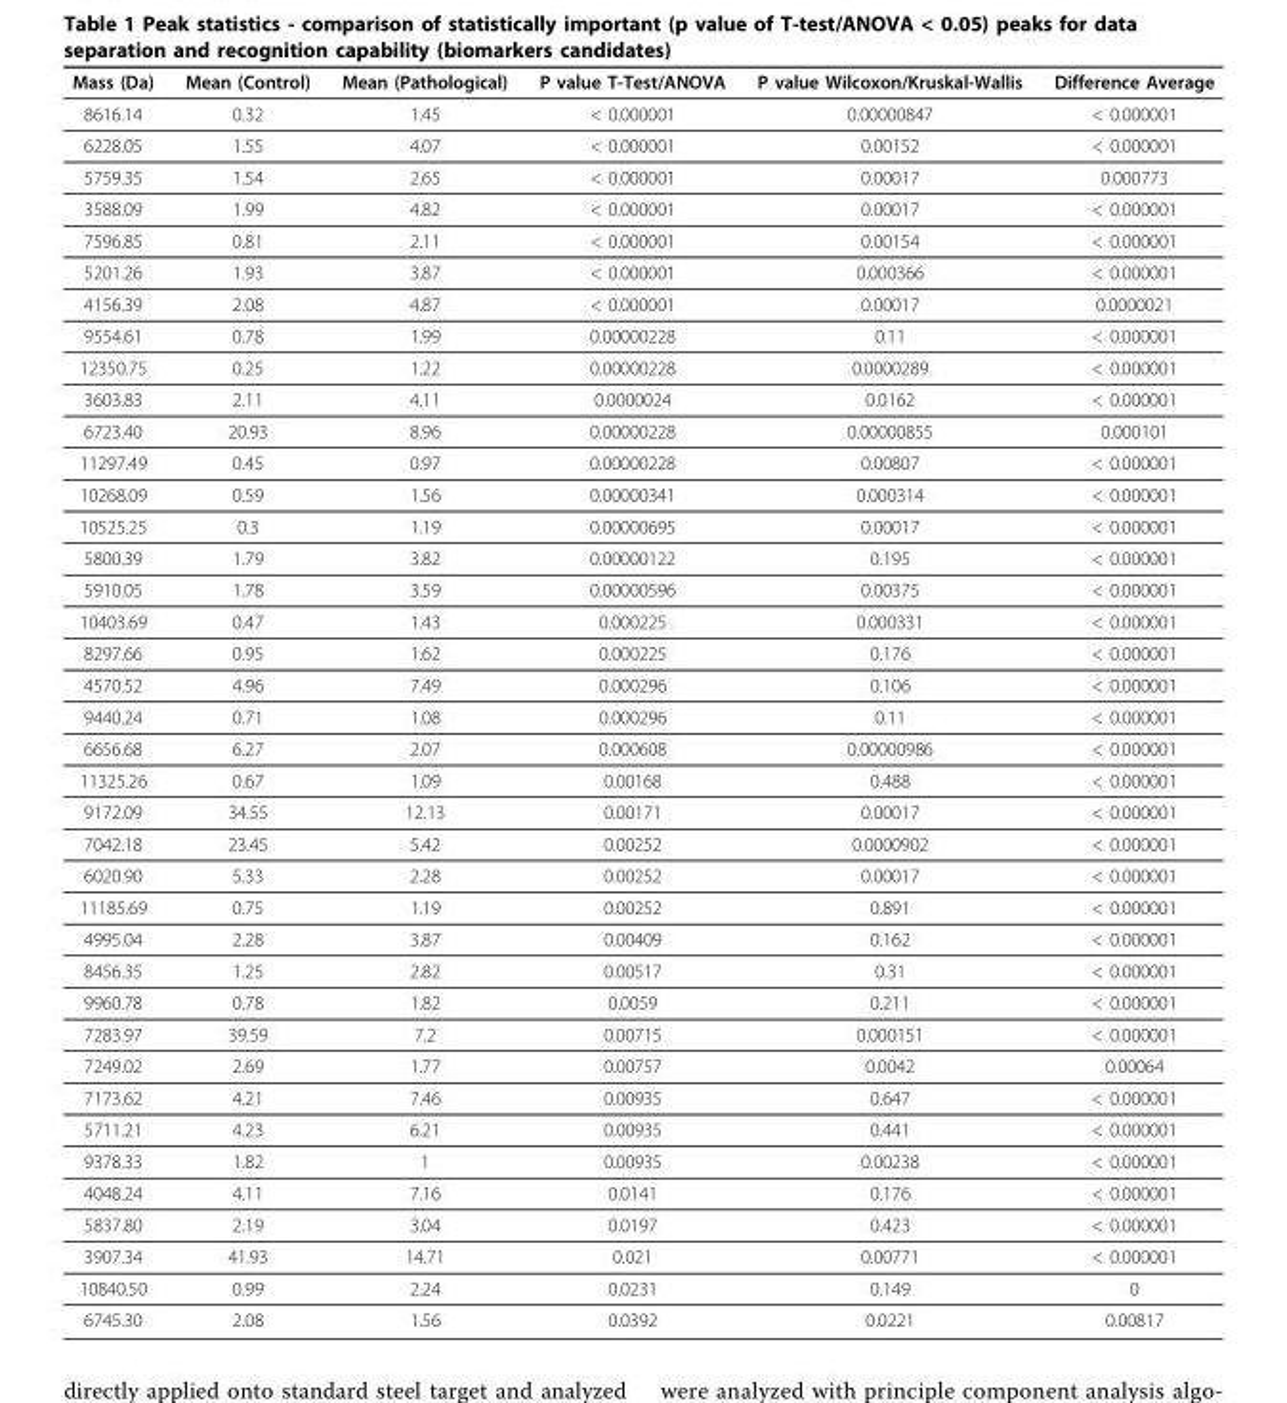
<table><thead><tr><td>Mass (Da)</td><td>Mean (Control)</td><td>Mean (Pathological)</td><td>P value T-Test/ANOVA</td><td>P value Wilcoxon/Kruskal-Wallis</td><td>Difference Average</td></tr></thead><tbody><tr><td>8616.14</td><td>0.32</td><td>1.45</td><td>&lt; 0.000001</td><td>0.00000847</td><td>&lt; 0.000001</td></tr><tr><td>6228.05</td><td>1.55</td><td>4.07</td><td>&lt; 0.000001</td><td>0.00152</td><td>&lt; 0.000001</td></tr><tr><td>5759.35</td><td>1.54</td><td>2.65</td><td>&lt; 0.000001</td><td>0.00017</td><td>0.000773</td></tr><tr><td>3588.09</td><td>1.99</td><td>4.82</td><td>&lt; 0.000001</td><td>0.00017</td><td>&lt; 0.000001</td></tr><tr><td>7596.85</td><td>0.81</td><td>2.11</td><td>&lt; 0.000001</td><td>0.00154</td><td>&lt; 0.000001</td></tr><tr><td>5201.26</td><td>1.93</td><td>3.87</td><td>&lt; 0.000001</td><td>0.000366</td><td>&lt; 0.000001</td></tr><tr><td>4156.39</td><td>2.08</td><td>4.87</td><td>&lt; 0.000001</td><td>0.00017</td><td>0.0000021</td></tr><tr><td>9554.61</td><td>0.78</td><td>1.99</td><td>0.00000228</td><td>0.11</td><td>&lt; 0.000001</td></tr><tr><td>12350.75</td><td>0.25</td><td>1.22</td><td>0.00000228</td><td>0.0000289</td><td>&lt; 0.000001</td></tr><tr><td>3603.83</td><td>2.11</td><td>4.11</td><td>0.0000024</td><td>0.0162</td><td>&lt; 0.000001</td></tr><tr><td>6723.40</td><td>20.93</td><td>8.96</td><td>0.00000228</td><td>0.00000855</td><td>0.000101</td></tr><tr><td>11297.49</td><td>0.45</td><td>0.97</td><td>0.00000228</td><td>0.00807</td><td>&lt; 0.000001</td></tr><tr><td>10268.09</td><td>0.59</td><td>1.56</td><td>0.00000341</td><td>0.000314</td><td>&lt; 0.000001</td></tr><tr><td>10525.25</td><td>0.3</td><td>1.19</td><td>0.00000695</td><td>0.00017</td><td>&lt; 0.000001</td></tr><tr><td>5800.39</td><td>1.79</td><td>3.82</td><td>0.00000122</td><td>0.195</td><td>&lt; 0.000001</td></tr><tr><td>5910.05</td><td>1.78</td><td>3.59</td><td>0.00000596</td><td>0.00375</td><td>&lt; 0.000001</td></tr><tr><td>10403.69</td><td>0.47</td><td>1.43</td><td>0.000225</td><td>0.000331</td><td>&lt; 0.000001</td></tr><tr><td>8297.66</td><td>0.95</td><td>1.62</td><td>0.000225</td><td>0.176</td><td>&lt; 0.000001</td></tr><tr><td>4570.52</td><td>4.96</td><td>7.49</td><td>0.000296</td><td>0.106</td><td>&lt; 0.000001</td></tr><tr><td>9440.24</td><td>0.71</td><td>1.08</td><td>0.000296</td><td>0.11</td><td>&lt; 0.000001</td></tr><tr><td>6656.68</td><td>6.27</td><td>2.07</td><td>0.000608</td><td>0.00000986</td><td>&lt; 0.000001</td></tr><tr><td>11325.26</td><td>0.67</td><td>1.09</td><td>0.00168</td><td>0.488</td><td>&lt; 0.000001</td></tr><tr><td>9172.09</td><td>34.55</td><td>12.13</td><td>0.00171</td><td>0.00017</td><td>&lt; 0.000001</td></tr><tr><td>7042.18</td><td>23.45</td><td>5.42</td><td>0.00252</td><td>0.0000902</td><td>&lt; 0.000001</td></tr><tr><td>6020.90</td><td>5.33</td><td>2.28</td><td>0.00252</td><td>0.00017</td><td>&lt; 0.000001</td></tr><tr><td>11185.69</td><td>0.75</td><td>1.19</td><td>0.00252</td><td>0.891</td><td>&lt; 0.000001</td></tr><tr><td>4995.04</td><td>2.28</td><td>3.87</td><td>0.00409</td><td>0.162</td><td>&lt; 0.000001</td></tr><tr><td>8456.35</td><td>1.25</td><td>2.82</td><td>0.00517</td><td>0.31</td><td>&lt; 0.000001</td></tr><tr><td>9960.78</td><td>0.78</td><td>1.82</td><td>0.0059</td><td>0.211</td><td>&lt; 0.000001</td></tr><tr><td>7283.97</td><td>39.59</td><td>7.2</td><td>0.00715</td><td>0.000151</td><td>&lt; 0.000001</td></tr><tr><td>7249.02</td><td>2.69</td><td>1.77</td><td>0.00757</td><td>0.0042</td><td>0.00064</td></tr><tr><td>7173.62</td><td>4.21</td><td>7.46</td><td>0.00935</td><td>0.647</td><td>&lt; 0.000001</td></tr><tr><td>5711.21</td><td>4.23</td><td>6.21</td><td>0.00935</td><td>0.441</td><td>&lt; 0.000001</td></tr><tr><td>9378.33</td><td>1.82</td><td>1</td><td>0.00935</td><td>0.00238</td><td>&lt; 0.000001</td></tr><tr><td>4048.24</td><td>4.11</td><td>7.16</td><td>0.0141</td><td>0.176</td><td>&lt; 0.000001</td></tr><tr><td>5837.80</td><td>2.19</td><td>3.04</td><td>0.0197</td><td>0.423</td><td>&lt; 0.000001</td></tr><tr><td>3907.34</td><td>41.93</td><td>14.71</td><td>0.021</td><td>0.00771</td><td>&lt; 0.000001</td></tr><tr><td>10840.50</td><td>0.99</td><td>2.24</td><td>0.0231</td><td>0.149</td><td>0</td></tr><tr><td>6745.30</td><td>2.08</td><td>1.56</td><td>0.0392</td><td>0.0221</td><td>0.00817</td></tr></tbody></table>